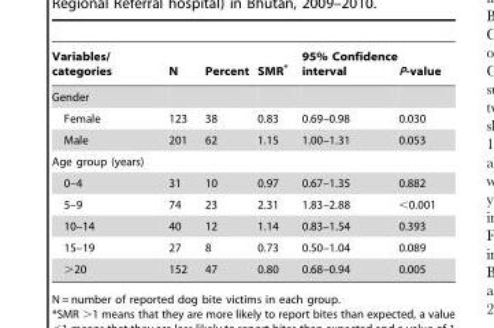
<table><thead><tr><td>Variables/ categories</td><td>N</td><td>Percent</td><td>SMR*</td><td>95% Confidence interval</td><td>P-value</td></tr></thead><tbody><tr><td colspan="6">Gender</td></tr><tr><td>Female</td><td>123</td><td>38</td><td>0.83</td><td>0.69–0.98</td><td>0.030</td></tr><tr><td>Male</td><td>201</td><td>62</td><td>1.15</td><td>1.00–1.31</td><td>0.053</td></tr><tr><td colspan="6">Age group (years)</td></tr><tr><td>0–4</td><td>31</td><td>10</td><td>0.97</td><td>0.67–1.35</td><td>0.882</td></tr><tr><td>5–9</td><td>74</td><td>23</td><td>2.31</td><td>1.83–2.88</td><td>&lt;0.001</td></tr><tr><td>10–14</td><td>40</td><td>12</td><td>1.14</td><td>0.83–1.54</td><td>0.393</td></tr><tr><td>15–19</td><td>27</td><td>8</td><td>0.73</td><td>0.50–1.04</td><td>0.089</td></tr><tr><td>&gt;20</td><td>152</td><td>47</td><td>0.80</td><td>0.68–0.94</td><td>0.005</td></tr></tbody></table>